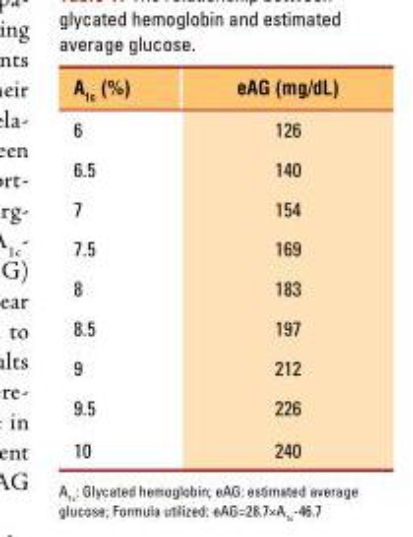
<table><thead><tr><td>A<sub>1c</sub> (%)</td><td>eAG (mg/dL)</td></tr></thead><tbody><tr><td>6</td><td>126</td></tr><tr><td>6.5</td><td>140</td></tr><tr><td>7</td><td>154</td></tr><tr><td>7.5</td><td>169</td></tr><tr><td>8</td><td>183</td></tr><tr><td>8.5</td><td>197</td></tr><tr><td>9</td><td>212</td></tr><tr><td>9.5</td><td>226</td></tr><tr><td>10</td><td>240</td></tr></tbody></table>